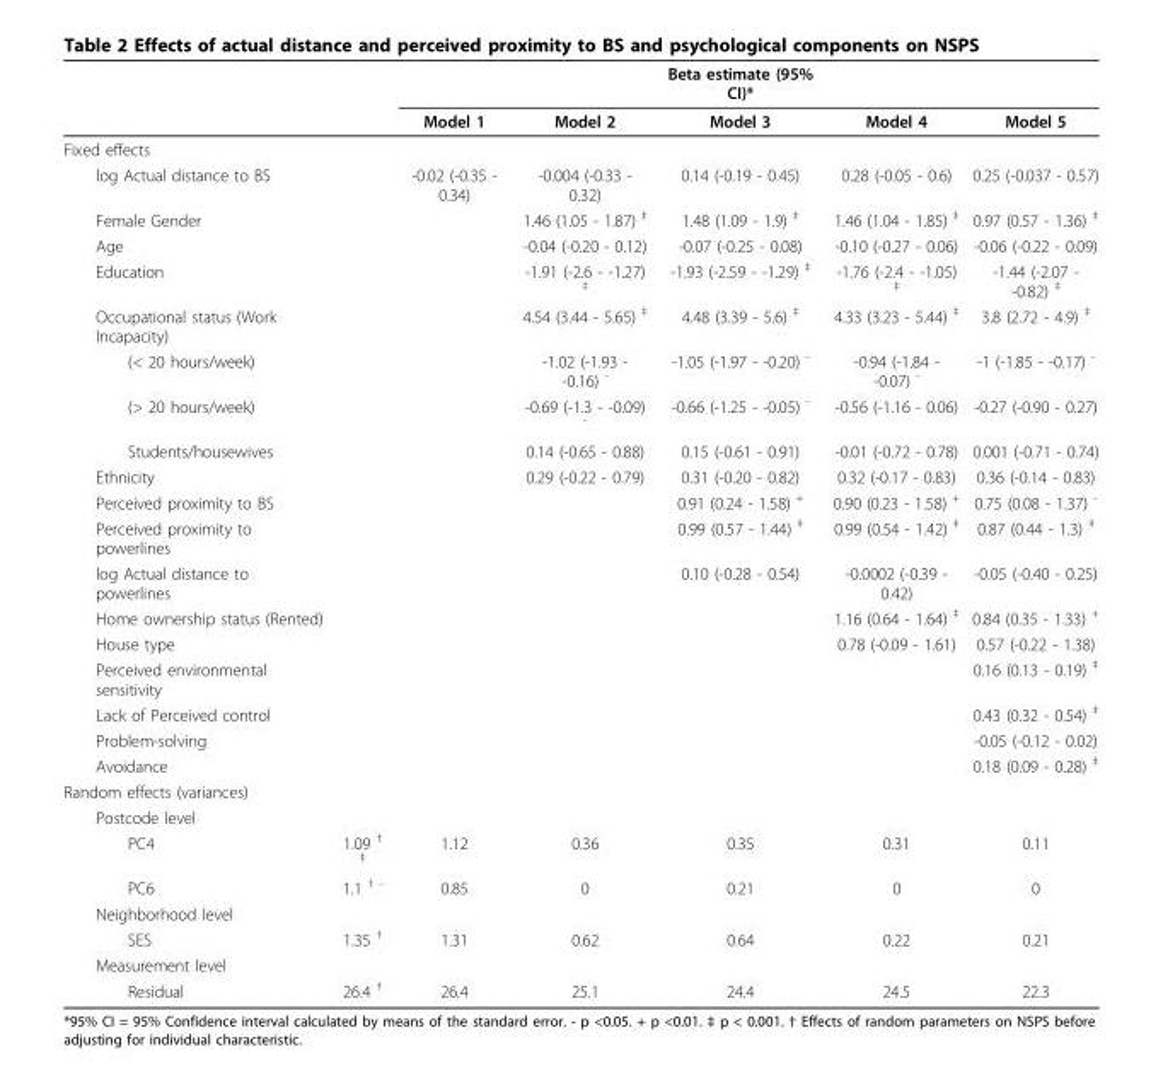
<table><thead><tr><td rowspan="2"></td><td rowspan="2"></td><td rowspan="2">Model 1</td><td rowspan="2">Model 2</td><td rowspan="2">Beta estimate (95% CI)* Model 3</td><td rowspan="2">Model 4</td><td rowspan="2">Model 5</td></tr><tr></tr></thead><tbody><tr><td colspan="7">Fixed effects</td></tr><tr><td>log Actual distance to BS</td><td></td><td>-0.02 (-0.35 - 0.34)</td><td>-0.004 (-0.33 - 0.32)</td><td>0.14 (-0.19 - 0.45)</td><td>0.28 (-0.05 - 0.6)</td><td>0.25 (-0.037 - 0.57)</td></tr><tr><td>Female Gender</td><td></td><td></td><td>1.46 (1.05 - 1.87) <sup>‡</sup></td><td>1.48 (1.09 - 1.9) <sup>‡</sup></td><td>1.46 (1.04 - 1.85) <sup>‡</sup></td><td>0.97 (0.57 - 1.36) <sup>‡</sup></td></tr><tr><td>Age</td><td></td><td></td><td>-0.04 (-0.20 - 0.12)</td><td>-0.07 (-0.25 - 0.08)</td><td>-0.10 (-0.27 - 0.06)</td><td>-0.06 (-0.22 - 0.09)</td></tr><tr><td>Education</td><td></td><td></td><td>-1.91 (-2.6 - -1.27) <sup>‡</sup></td><td>-1.93 (-2.59 - -1.29) <sup>‡</sup></td><td>-1.76 (-2.4 - -1.05) <sup>‡</sup></td><td>-1.44 (-2.07 - -0.82) <sup>‡</sup></td></tr><tr><td>Occupational status (Work Incapacity)</td><td></td><td></td><td>4.54 (3.44 - 5.65) <sup>‡</sup></td><td>4.48 (3.39 - 5.6) <sup>‡</sup></td><td>4.33 (3.23 - 5.44) <sup>‡</sup></td><td>3.8 (2.72 - 4.9) <sup>‡</sup></td></tr><tr><td>(&lt; 20 hours/week)</td><td></td><td></td><td>-1.02 (-1.93 - -0.16) <sup>-</sup></td><td>-1.05 (-1.97 - -0.20) <sup>-</sup></td><td>-0.94 (-1.84 - -0.07) <sup>-</sup></td><td>-1 (-1.85 - -0.17) <sup>-</sup></td></tr><tr><td>(&gt; 20 hours/week)</td><td></td><td></td><td>-0.69 (-1.3 - -0.09) <sup>-</sup></td><td>-0.66 (-1.25 - -0.05) <sup>-</sup></td><td>-0.56 (-1.16 - 0.06)</td><td>-0.27 (-0.90 - 0.27)</td></tr><tr><td>Students/housewives</td><td></td><td></td><td>0.14 (-0.65 - 0.88)</td><td>0.15 (-0.61 - 0.91)</td><td>-0.01 (-0.72 - 0.78)</td><td>0.001 (-0.71 - 0.74)</td></tr><tr><td>Ethnicity</td><td></td><td></td><td>0.29 (-0.22 - 0.79)</td><td>0.31 (-0.20 - 0.82)</td><td>0.32 (-0.17 - 0.83)</td><td>0.36 (-0.14 - 0.83)</td></tr><tr><td>Perceived proximity to BS</td><td></td><td></td><td></td><td>0.91 (0.24 - 1.58) <sup>+</sup></td><td>0.90 (0.23 - 1.58) <sup>+</sup></td><td>0.75 (0.08 - 1.37) <sup>-</sup></td></tr><tr><td>Perceived proximity to powerlines</td><td></td><td></td><td></td><td>0.99 (0.57 - 1.44) <sup>‡</sup></td><td>0.99 (0.54 - 1.42) <sup>‡</sup></td><td>0.87 (0.44 - 1.3) <sup>‡</sup></td></tr><tr><td>log Actual distance to powerlines</td><td></td><td></td><td></td><td>0.10 (-0.28 - 0.54)</td><td>-0.0002 (-0.39 - 0.42)</td><td>-0.05 (-0.40 - 0.25)</td></tr><tr><td>Home ownership status (Rented)</td><td></td><td></td><td></td><td></td><td>1.16 (0.64 - 1.64) <sup>‡</sup></td><td>0.84 (0.35 - 1.33) <sup>+</sup></td></tr><tr><td>House type</td><td></td><td></td><td></td><td></td><td>0.78 (-0.09 - 1.61)</td><td>0.57 (-0.22 - 1.38)</td></tr><tr><td>Perceived environmental sensitivity</td><td></td><td></td><td></td><td></td><td></td><td>0.16 (0.13 - 0.19) <sup>‡</sup></td></tr><tr><td>Lack of Perceived control</td><td></td><td></td><td></td><td></td><td></td><td>0.43 (0.32 - 0.54) <sup>‡</sup></td></tr><tr><td>Problem-solving</td><td></td><td></td><td></td><td></td><td></td><td>-0.05 (-0.12 - 0.02)</td></tr><tr><td>Avoidance</td><td></td><td></td><td></td><td></td><td></td><td>0.18 (0.09 - 0.28) <sup>‡</sup></td></tr><tr><td colspan="7">Random effects (variances)</td></tr><tr><td colspan="7">Postcode level</td></tr><tr><td>PC4</td><td>1.09 <sup>† ‡</sup></td><td>1.12</td><td>0.36</td><td>0.35</td><td>0.31</td><td>0.11</td></tr><tr><td>PC6</td><td>1.1 <sup>† -</sup></td><td>0.85</td><td>0</td><td>0.21</td><td>0</td><td>0</td></tr><tr><td colspan="7">Neighborhood level</td></tr><tr><td>SES</td><td>1.35 <sup>†</sup></td><td>1.31</td><td>0.62</td><td>0.64</td><td>0.22</td><td>0.21</td></tr><tr><td colspan="7">Measurement level</td></tr><tr><td>Residual</td><td>26.4 <sup>†</sup></td><td>26.4</td><td>25.1</td><td>24.4</td><td>24.5</td><td>22.3</td></tr></tbody></table>